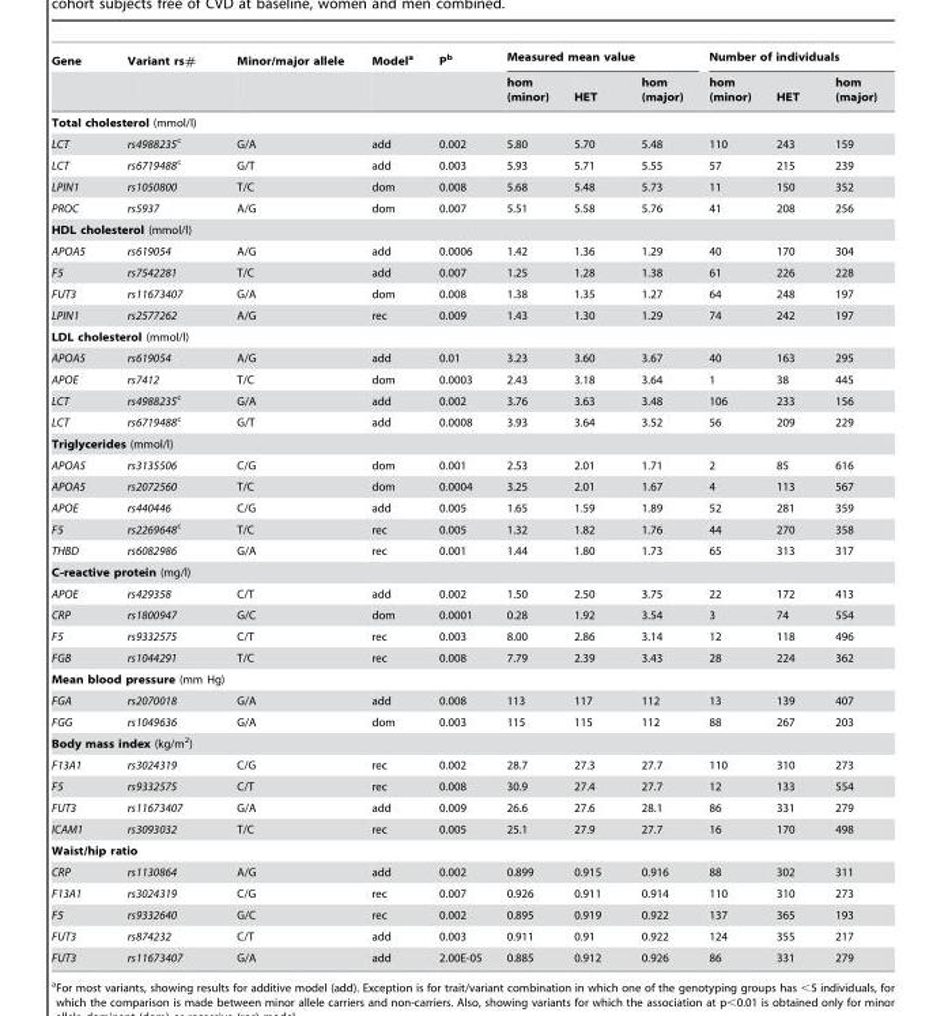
<table><thead><tr><td rowspan="2">Gene</td><td rowspan="2">Variant rs#</td><td rowspan="2">Minor/major allele</td><td rowspan="2">Model<sup>a</sup></td><td rowspan="2">P<sup>b</sup></td><td colspan="3">Measured mean value</td><td colspan="3">Number of individuals</td></tr><tr><td>hom (minor)</td><td>HET</td><td>hom (major)</td><td>hom (minor)</td><td>HET</td><td>hom (major)</td></tr></thead><tbody><tr><td colspan="11">Total cholesterol (mmol/l)</td></tr><tr><td>LCT</td><td>rs4988235c</td><td>G/A</td><td>add</td><td>0.002</td><td>5.80</td><td>5.70</td><td>5.48</td><td>110</td><td>243</td><td>159</td></tr><tr><td>LCT</td><td>rs6719488c</td><td>G/T</td><td>add</td><td>0.003</td><td>5.93</td><td>5.71</td><td>5.55</td><td>57</td><td>215</td><td>239</td></tr><tr><td>LPIN1</td><td>rs1050800</td><td>T/C</td><td>dom</td><td>0.008</td><td>5.68</td><td>5.48</td><td>5.73</td><td>11</td><td>150</td><td>352</td></tr><tr><td>PROC</td><td>rs5937</td><td>A/G</td><td>dom</td><td>0.007</td><td>5.51</td><td>5.58</td><td>5.76</td><td>41</td><td>208</td><td>256</td></tr><tr><td colspan="11">HDL cholesterol (mmol/l)</td></tr><tr><td>APOA5</td><td>rs619054</td><td>A/G</td><td>add</td><td>0.0006</td><td>1.42</td><td>1.36</td><td>1.29</td><td>40</td><td>170</td><td>304</td></tr><tr><td>F5</td><td>rs7542281</td><td>T/C</td><td>add</td><td>0.007</td><td>1.25</td><td>1.28</td><td>1.38</td><td>61</td><td>226</td><td>228</td></tr><tr><td>FUT3</td><td>rs11673407</td><td>G/A</td><td>dom</td><td>0.008</td><td>1.38</td><td>1.35</td><td>1.27</td><td>64</td><td>248</td><td>197</td></tr><tr><td>LPIN1</td><td>rs2577262</td><td>A/G</td><td>rec</td><td>0.009</td><td>1.43</td><td>1.30</td><td>1.29</td><td>74</td><td>242</td><td>197</td></tr><tr><td colspan="11">LDL cholesterol (mmol/l)</td></tr><tr><td>APOA5</td><td>rs619054</td><td>A/G</td><td>add</td><td>0.01</td><td>3.23</td><td>3.60</td><td>3.67</td><td>40</td><td>163</td><td>295</td></tr><tr><td>APOE</td><td>rs7412</td><td>T/C</td><td>dom</td><td>0.0003</td><td>2.43</td><td>3.18</td><td>3.64</td><td>1</td><td>38</td><td>445</td></tr><tr><td>LCT</td><td>rs4988235c</td><td>G/A</td><td>add</td><td>0.002</td><td>3.76</td><td>3.63</td><td>3.48</td><td>106</td><td>233</td><td>156</td></tr><tr><td>LCT</td><td>rs6719488c</td><td>G/T</td><td>add</td><td>0.0008</td><td>3.93</td><td>3.64</td><td>3.52</td><td>56</td><td>209</td><td>229</td></tr><tr><td colspan="11">Triglycerides (mmol/l)</td></tr><tr><td>APOA5</td><td>rs3135506</td><td>C/G</td><td>dom</td><td>0.001</td><td>2.53</td><td>2.01</td><td>1.71</td><td>2</td><td>85</td><td>616</td></tr><tr><td>APOA5</td><td>rs2072560</td><td>T/C</td><td>dom</td><td>0.0004</td><td>3.25</td><td>2.01</td><td>1.67</td><td>4</td><td>113</td><td>567</td></tr><tr><td>APOE</td><td>rs440446</td><td>C/G</td><td>add</td><td>0.005</td><td>1.65</td><td>1.59</td><td>1.89</td><td>52</td><td>281</td><td>359</td></tr><tr><td>F5</td><td>rs2269648c</td><td>T/C</td><td>rec</td><td>0.005</td><td>1.32</td><td>1.82</td><td>1.76</td><td>44</td><td>270</td><td>358</td></tr><tr><td>THBD</td><td>rs6082986</td><td>G/A</td><td>rec</td><td>0.001</td><td>1.44</td><td>1.80</td><td>1.73</td><td>65</td><td>313</td><td>317</td></tr><tr><td colspan="11">C-reactive protein (mg/l)</td></tr><tr><td>APOE</td><td>rs429358</td><td>C/T</td><td>add</td><td>0.002</td><td>1.50</td><td>2.50</td><td>3.75</td><td>22</td><td>172</td><td>413</td></tr><tr><td>CRP</td><td>rs1800947</td><td>G/C</td><td>dom</td><td>0.0001</td><td>0.28</td><td>1.92</td><td>3.54</td><td>3</td><td>74</td><td>554</td></tr><tr><td>F5</td><td>rs9332575</td><td>C/T</td><td>rec</td><td>0.003</td><td>8.00</td><td>2.86</td><td>3.14</td><td>12</td><td>118</td><td>496</td></tr><tr><td>FGB</td><td>rs1044291</td><td>T/C</td><td>rec</td><td>0.008</td><td>7.79</td><td>2.39</td><td>3.43</td><td>28</td><td>224</td><td>362</td></tr><tr><td colspan="11">Mean blood pressure (mm Hg)</td></tr><tr><td>FGA</td><td>rs2070018</td><td>G/A</td><td>add</td><td>0.008</td><td>113</td><td>117</td><td>112</td><td>13</td><td>139</td><td>407</td></tr><tr><td>FGG</td><td>rs1049636</td><td>G/A</td><td>dom</td><td>0.003</td><td>115</td><td>115</td><td>112</td><td>88</td><td>267</td><td>203</td></tr><tr><td colspan="11">Body mass index (kg/m<sup>2</sup>)</td></tr><tr><td>F13A1</td><td>rs3024319</td><td>C/G</td><td>rec</td><td>0.002</td><td>28.7</td><td>27.3</td><td>27.7</td><td>110</td><td>310</td><td>273</td></tr><tr><td>F5</td><td>rs9332575</td><td>C/T</td><td>rec</td><td>0.008</td><td>30.9</td><td>27.4</td><td>27.7</td><td>12</td><td>133</td><td>554</td></tr><tr><td>FUT3</td><td>rs11673407</td><td>G/A</td><td>add</td><td>0.009</td><td>26.6</td><td>27.6</td><td>28.1</td><td>86</td><td>331</td><td>279</td></tr><tr><td>ICAM1</td><td>rs3093032</td><td>T/C</td><td>rec</td><td>0.005</td><td>25.1</td><td>27.9</td><td>27.7</td><td>16</td><td>170</td><td>498</td></tr><tr><td colspan="11">Waist/hip ratio</td></tr><tr><td>CRP</td><td>rs1130864</td><td>A/G</td><td>add</td><td>0.002</td><td>0.899</td><td>0.915</td><td>0.916</td><td>88</td><td>302</td><td>311</td></tr><tr><td>F13A1</td><td>rs3024319</td><td>C/G</td><td>rec</td><td>0.007</td><td>0.926</td><td>0.911</td><td>0.914</td><td>110</td><td>310</td><td>273</td></tr><tr><td>F5</td><td>rs9332640</td><td>G/C</td><td>rec</td><td>0.002</td><td>0.895</td><td>0.919</td><td>0.922</td><td>137</td><td>365</td><td>193</td></tr><tr><td>FUT3</td><td>rs874232</td><td>C/T</td><td>add</td><td>0.003</td><td>0.911</td><td>0.91</td><td>0.922</td><td>124</td><td>355</td><td>217</td></tr><tr><td>FUT3</td><td>rs11673407</td><td>G/A</td><td>add</td><td>2.00E-05</td><td>0.885</td><td>0.912</td><td>0.926</td><td>86</td><td>331</td><td>279</td></tr></tbody></table>